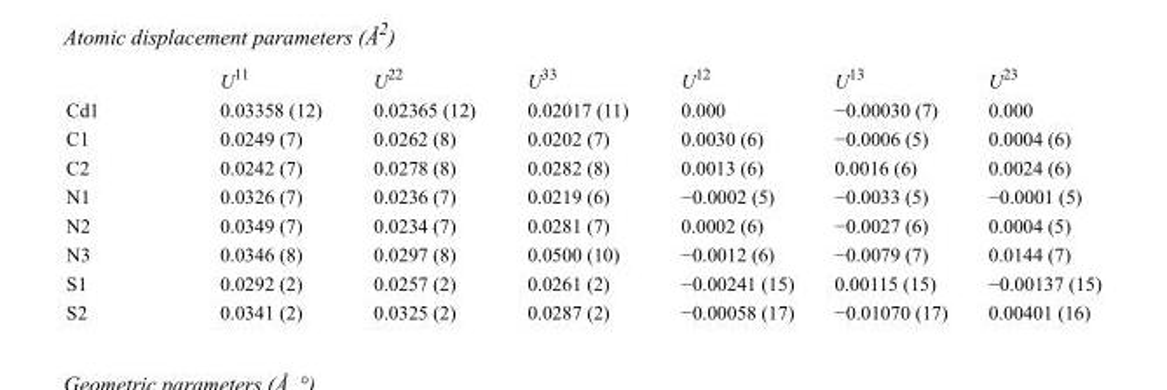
<table><thead><tr><td></td><td>U<sup>11</sup></td><td>U<sup>22</sup></td><td>U<sup>33</sup></td><td>U<sup>12</sup></td><td>U<sup>13</sup></td><td>U<sup>23</sup></td></tr></thead><tbody><tr><td>Cd1</td><td>0.03358 (12)</td><td>0.02365 (12)</td><td>0.02017 (11)</td><td>0.000</td><td>−0.00030 (7)</td><td>0.000</td></tr><tr><td>C1</td><td>0.0249 (7)</td><td>0.0262 (8)</td><td>0.0202 (7)</td><td>0.0030 (6)</td><td>−0.0006 (5)</td><td>0.0004 (6)</td></tr><tr><td>C2</td><td>0.0242 (7)</td><td>0.0278 (8)</td><td>0.0282 (8)</td><td>0.0013 (6)</td><td>0.0016 (6)</td><td>0.0024 (6)</td></tr><tr><td>N1</td><td>0.0326 (7)</td><td>0.0236 (7)</td><td>0.0219 (6)</td><td>−0.0002 (5)</td><td>−0.0033 (5)</td><td>−0.0001 (5)</td></tr><tr><td>N2</td><td>0.0349 (7)</td><td>0.0234 (7)</td><td>0.0281 (7)</td><td>0.0002 (6)</td><td>−0.0027 (6)</td><td>0.0004 (5)</td></tr><tr><td>N3</td><td>0.0346 (8)</td><td>0.0297 (8)</td><td>0.0500 (10)</td><td>−0.0012 (6)</td><td>−0.0079 (7)</td><td>0.0144 (7)</td></tr><tr><td>S1</td><td>0.0292 (2)</td><td>0.0257 (2)</td><td>0.0261 (2)</td><td>−0.00241 (15)</td><td>0.00115 (15)</td><td>−0.00137 (15)</td></tr><tr><td>S2</td><td>0.0341 (2)</td><td>0.0325 (2)</td><td>0.0287 (2)</td><td>−0.00058 (17)</td><td>−0.01070 (17)</td><td>0.00401 (16)</td></tr></tbody></table>